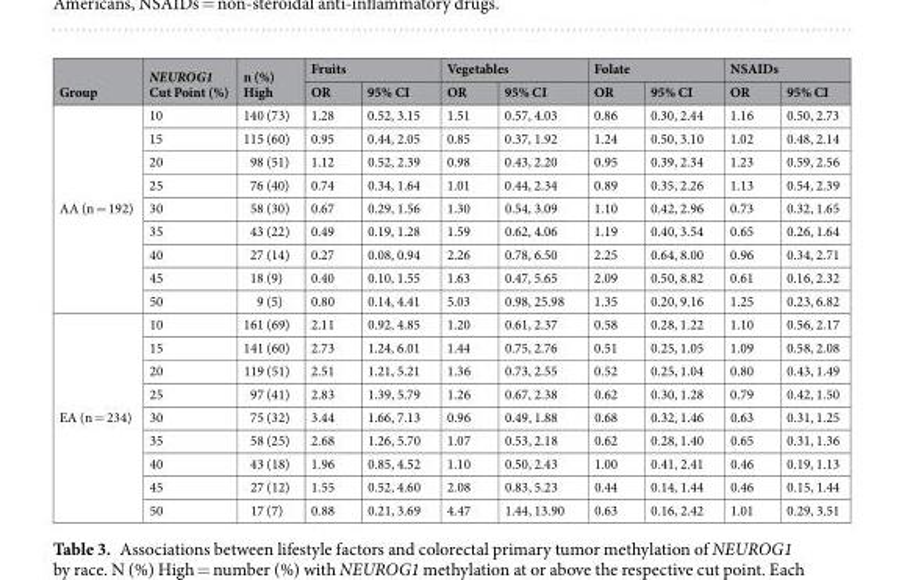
<table><thead><tr><td rowspan="2">Group</td><td rowspan="2">NEUROG1 Cut Point (%)</td><td rowspan="2">n (%) High</td><td colspan="2">Fruits</td><td colspan="2">Vegetables</td><td colspan="2">Folate</td><td colspan="2">NSAIDs</td></tr><tr><td>OR</td><td>95% CI</td><td>OR</td><td>95% CI</td><td>OR</td><td>95% CI</td><td>OR</td><td>95% CI</td></tr></thead><tbody><tr><td rowspan="9">AA (n = 192)</td><td>10</td><td>140 (73)</td><td>1.28</td><td>0.52, 3.15</td><td>1.51</td><td>0.57, 4.03</td><td>0.86</td><td>0.30, 2.44</td><td>1.16</td><td>0.50, 2.73</td></tr><tr><td>15</td><td>115 (60)</td><td>0.95</td><td>0.44, 2.05</td><td>0.85</td><td>0.37, 1.92</td><td>1.24</td><td>0.50, 3.10</td><td>1.02</td><td>0.48, 2.14</td></tr><tr><td>20</td><td>98 (51)</td><td>1.12</td><td>0.52, 2.39</td><td>0.98</td><td>0.43, 2.20</td><td>0.95</td><td>0.39, 2.34</td><td>1.23</td><td>0.59, 2.56</td></tr><tr><td>25</td><td>76 (40)</td><td>0.74</td><td>0.34, 1.64</td><td>1.01</td><td>0.44, 2.34</td><td>0.89</td><td>0.35, 2.26</td><td>1.13</td><td>0.54, 2.39</td></tr><tr><td>30</td><td>58 (30)</td><td>0.67</td><td>0.29, 1.56</td><td>1.30</td><td>0.54, 3.09</td><td>1.10</td><td>0.42, 2.96</td><td>0.73</td><td>0.32, 1.65</td></tr><tr><td>35</td><td>43 (22)</td><td>0.49</td><td>0.19, 1.28</td><td>1.59</td><td>0.62, 4.06</td><td>1.19</td><td>0.40, 3.54</td><td>0.65</td><td>0.26, 1.64</td></tr><tr><td>40</td><td>27 (14)</td><td>0.27</td><td>0.08, 0.94</td><td>2.26</td><td>0.78, 6.50</td><td>2.25</td><td>0.64, 8.00</td><td>0.96</td><td>0.34, 2.71</td></tr><tr><td>45</td><td>18 (9)</td><td>0.40</td><td>0.10, 1.55</td><td>1.63</td><td>0.47, 5.65</td><td>2.09</td><td>0.50, 8.82</td><td>0.61</td><td>0.16, 2.32</td></tr><tr><td>50</td><td>9 (5)</td><td>0.80</td><td>0.14, 4.41</td><td>5.03</td><td>0.98, 25.98</td><td>1.35</td><td>0.20, 9.16</td><td>1.25</td><td>0.23, 6.82</td></tr><tr><td rowspan="9">EA (n = 234)</td><td>10</td><td>161 (69)</td><td>2.11</td><td>0.92, 4.85</td><td>1.20</td><td>0.61, 2.37</td><td>0.58</td><td>0.28, 1.22</td><td>1.10</td><td>0.56, 2.17</td></tr><tr><td>15</td><td>141 (60)</td><td>2.73</td><td>1.24, 6.01</td><td>1.44</td><td>0.75, 2.76</td><td>0.51</td><td>0.25, 1.05</td><td>1.09</td><td>0.58, 2.08</td></tr><tr><td>20</td><td>119 (51)</td><td>2.51</td><td>1.21, 5.21</td><td>1.36</td><td>0.73, 2.55</td><td>0.52</td><td>0.25, 1.04</td><td>0.80</td><td>0.43, 1.49</td></tr><tr><td>25</td><td>97 (41)</td><td>2.83</td><td>1.39, 5.79</td><td>1.26</td><td>0.67, 2.38</td><td>0.62</td><td>0.30, 1.28</td><td>0.79</td><td>0.42, 1.50</td></tr><tr><td>30</td><td>75 (32)</td><td>3.44</td><td>1.66, 7.13</td><td>0.96</td><td>0.49, 1.88</td><td>0.68</td><td>0.32, 1.46</td><td>0.63</td><td>0.31, 1.25</td></tr><tr><td>35</td><td>58 (25)</td><td>2.68</td><td>1.26, 5.70</td><td>1.07</td><td>0.53, 2.18</td><td>0.62</td><td>0.28, 1.40</td><td>0.65</td><td>0.31, 1.36</td></tr><tr><td>40</td><td>43 (18)</td><td>1.96</td><td>0.85, 4.52</td><td>1.10</td><td>0.50, 2.43</td><td>1.00</td><td>0.41, 2.41</td><td>0.46</td><td>0.19, 1.13</td></tr><tr><td>45</td><td>27 (12)</td><td>1.55</td><td>0.52, 4.60</td><td>2.08</td><td>0.83, 5.23</td><td>0.44</td><td>0.14, 1.44</td><td>0.46</td><td>0.15, 1.44</td></tr><tr><td>50</td><td>17 (7)</td><td>0.88</td><td>0.21, 3.69</td><td>4.47</td><td>1.44, 13.90</td><td>0.63</td><td>0.16, 2.42</td><td>1.01</td><td>0.29, 3.51</td></tr></tbody></table>